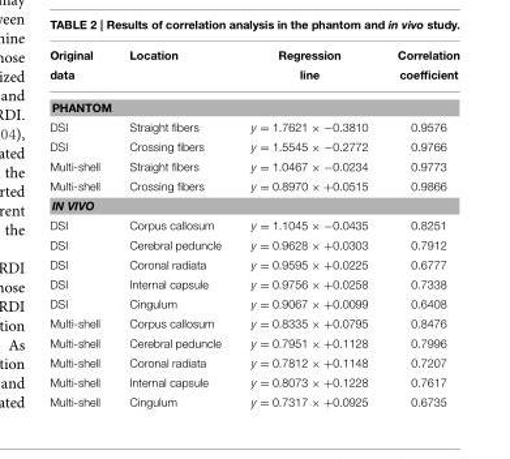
<table><thead><tr><td>Original data</td><td>Location</td><td>Regression line</td><td>Correlation coefficient</td></tr></thead><tbody><tr><td colspan="4">PHANTOM</td></tr><tr><td>DSI</td><td>Straight fibers</td><td>y = 1.7621 × −0.3810</td><td>0.9576</td></tr><tr><td>DSI</td><td>Crossing fibers</td><td>y = 1.5545 × −0.2772</td><td>0.9766</td></tr><tr><td>Multi-shell</td><td>Straight fibers</td><td>y = 1.0467 × −0.0234</td><td>0.9773</td></tr><tr><td>Multi-shell</td><td>Crossing fibers</td><td>y = 0.8970 × +0.0515</td><td>0.9866</td></tr><tr><td colspan="4">IN VIVO</td></tr><tr><td>DSI</td><td>Corpus callosum</td><td>y = 1.1045 × −0.0435</td><td>0.8251</td></tr><tr><td>DSI</td><td>Cerebral peduncle</td><td>y = 0.9628 × +0.0303</td><td>0.7912</td></tr><tr><td>DSI</td><td>Coronal radiata</td><td>y = 0.9595 × +0.0225</td><td>0.6777</td></tr><tr><td>DSI</td><td>Internal capsule</td><td>y = 0.9756 × +0.0258</td><td>0.7338</td></tr><tr><td>DSI</td><td>Cingulum</td><td>y = 0.9067 × +0.0099</td><td>0.6408</td></tr><tr><td>Multi-shell</td><td>Corpus callosum</td><td>y = 0.8335 × +0.0795</td><td>0.8476</td></tr><tr><td>Multi-shell</td><td>Cerebral peduncle</td><td>y = 0.7951 × +0.1128</td><td>0.7996</td></tr><tr><td>Multi-shell</td><td>Coronal radiata</td><td>y = 0.7812 × +0.1148</td><td>0.7207</td></tr><tr><td>Multi-shell</td><td>Internal capsule</td><td>y = 0.8073 × +0.1228</td><td>0.7617</td></tr><tr><td>Multi-shell</td><td>Cingulum</td><td>y = 0.7317 × +0.0925</td><td>0.6735</td></tr></tbody></table>